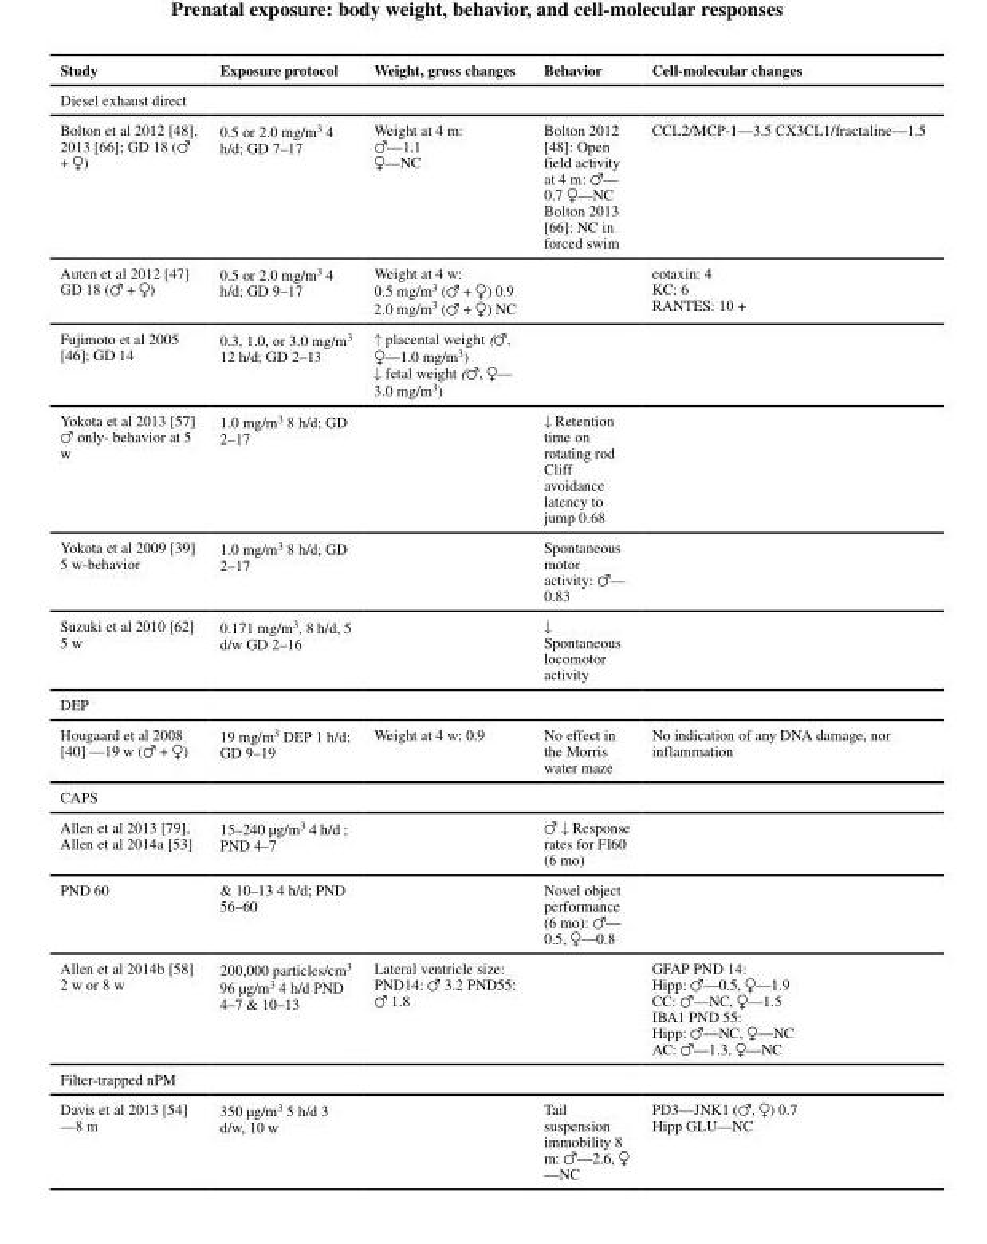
<table><thead><tr><td>Study</td><td>Exposure protocol</td><td>Weight, gross changes</td><td>Behavior</td><td>Cell-molecular changes</td></tr></thead><tbody><tr><td colspan="5">Diesel exhaust direct</td></tr><tr><td>Bolton et al 2012 [48], 2013 [66]; GD 18 (♂ + ♀)</td><td>0.5 or 2.0 mg/m<sup>3</sup> 4 h/d; GD 7–17</td><td>Weight at 4 m: ♂—1.1 ♀—NC</td><td>Bolton 2012 [48]: Open field activity at 4 m: ♂— 0.7 ♀—NC Bolton 2013 [66]: NC in forced swim</td><td>CCL2/MCP-1—3.5 CX3CL1/fractaline—1.5</td></tr><tr><td>Auten et al 2012 [47] GD 18 (♂ + ♀)</td><td>0.5 or 2.0 mg/m<sup>3</sup> 4 h/d; GD 9–17</td><td>Weight at 4 w: 0.5 mg/m<sup>3</sup> (♂ + ♀) 0.9 2.0 mg/m<sup>3</sup> (♂ + ♀) NC</td><td></td><td>eotaxin: 4 KC: 6 RANTES: 10 +</td></tr><tr><td>Fujimoto et al 2005 [46]; GD 14</td><td>0.3, 1.0, or 3.0 mg/m<sup>3</sup> 12 h/d; GD 2–13</td><td>↑ placental weight (♂, ♀—1.0 mg/m<sup>3</sup>) ↓ fetal weight (♂, ♀— 3.0 mg/m<sup>3</sup>)</td><td></td><td></td></tr><tr><td>Yokota et al 2013 [57] ♂ only- behavior at 5 w</td><td>1.0 mg/m<sup>3</sup> 8 h/d; GD 2–17</td><td></td><td>↓ Retention time on rotating rod Cliff avoidance latency to jump 0.68</td><td></td></tr><tr><td>Yokota et al 2009 [39] 5 w-behavior</td><td>1.0 mg/m<sup>3</sup> 8 h/d; GD 2–17</td><td></td><td>Spontaneous motor activity: ♂— 0.83</td><td></td></tr><tr><td>Suzuki et al 2010 [62] 5 w</td><td>0.171 mg/m<sup>3</sup>, 8 h/d, 5 d/w GD 2–16</td><td></td><td>↓ Spontaneous locomotor activity</td><td></td></tr><tr><td colspan="5">DEP</td></tr><tr><td>Hougaard et al 2008 [40] —19 w (♂ + ♀)</td><td>19 mg/m<sup>3</sup> DEP 1 h/d; GD 9–19</td><td>Weight at 4 w: 0.9</td><td>No effect in the Morris water maze</td><td>No indication of any DNA damage, nor inflammation</td></tr><tr><td colspan="5">CAPS</td></tr><tr><td>Allen et al 2013 [79], Allen et al 2014a [53]</td><td>15–240 μg/m<sup>3</sup> 4 h/d ; PND 4–7</td><td></td><td>♂ ↓ Response rates for FI60 (6 mo)</td><td></td></tr><tr><td>PND 60</td><td>&amp; 10–13 4 h/d; PND 56–60</td><td></td><td>Novel object performance (6 mo): ♂— 0.5, ♀—0.8</td><td></td></tr><tr><td>Allen et al 2014b [58] 2 w or 8 w</td><td>200,000 particles/cm<sup>3</sup> 96 μg/m<sup>3</sup> 4 h/d PND 4–7 &amp; 10–13</td><td>Lateral ventricle size: PND14: ♂ 3.2 PND55: ♂ 1.8</td><td></td><td>GFAP PND 14: Hipp: ♂—0.5, ♀—1.9 CC: ♂—NC, ♀—1.5 IBA1 PND 55: Hipp: ♂—NC, ♀—NC AC: ♂—1.3, ♀—NC</td></tr><tr><td colspan="5">Filter-trapped nPM</td></tr><tr><td>Davis et al 2013 [54] —8 m</td><td>350 μg/m<sup>3</sup> 5 h/d 3 d/w, 10 w</td><td></td><td>Tail suspension immobility 8 m: ♂—2.6, ♀ —NC</td><td>PD3—JNK1 (♂, ♀) 0.7 Hipp GLU—NC</td></tr></tbody></table>